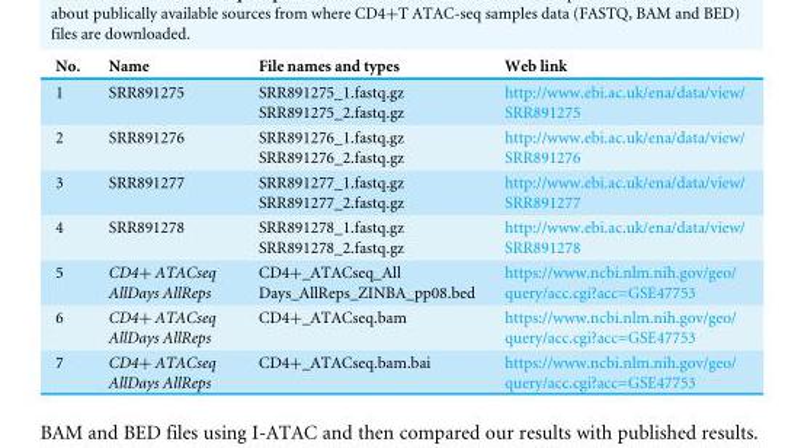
<table><thead><tr><td>No.</td><td>Name</td><td>File names and types</td><td>Web link</td></tr></thead><tbody><tr><td>1</td><td>SRR891275</td><td>SRR891275_1.fastq.gz SRR891275_2.fastq.gz</td><td>http://www.ebi.ac.uk/ena/data/view/ SRR891275</td></tr><tr><td>2</td><td>SRR891276</td><td>SRR891276_1.fastq.gz SRR891276_2.fastq.gz</td><td>http://www.ebi.ac.uk/ena/data/view/ SRR891276</td></tr><tr><td>3</td><td>SRR891277</td><td>SRR891277_1.fastq.gz SRR891277_2.fastq.gz</td><td>http://www.ebi.ac.uk/ena/data/view/ SRR891277</td></tr><tr><td>4</td><td>SRR891278</td><td>SRR891278_1.fastq.gz SRR891278_2.fastq.gz</td><td>http://www.ebi.ac.uk/ena/data/view/ SRR891278</td></tr><tr><td>5</td><td>CD4+ ATACseq AllDays AllReps</td><td>CD4+_ATACseq_All Days_AllReps_ZINBA_pp08.bed</td><td>https://www.ncbi.nlm.nih.gov/geo/ query/acc.cgi?acc=GSE47753</td></tr><tr><td>6</td><td>CD4+ ATACseq AllDays AllReps</td><td>CD4+_ATACseq.bam</td><td>https://www.ncbi.nlm.nih.gov/geo/ query/acc.cgi?acc=GSE47753</td></tr><tr><td>7</td><td>CD4+ ATACseq AllDays AllReps</td><td>CD4+_ATACseq.bam.bai</td><td>https://www.ncbi.nlm.nih.gov/geo/ query/acc.cgi?acc=GSE47753</td></tr></tbody></table>